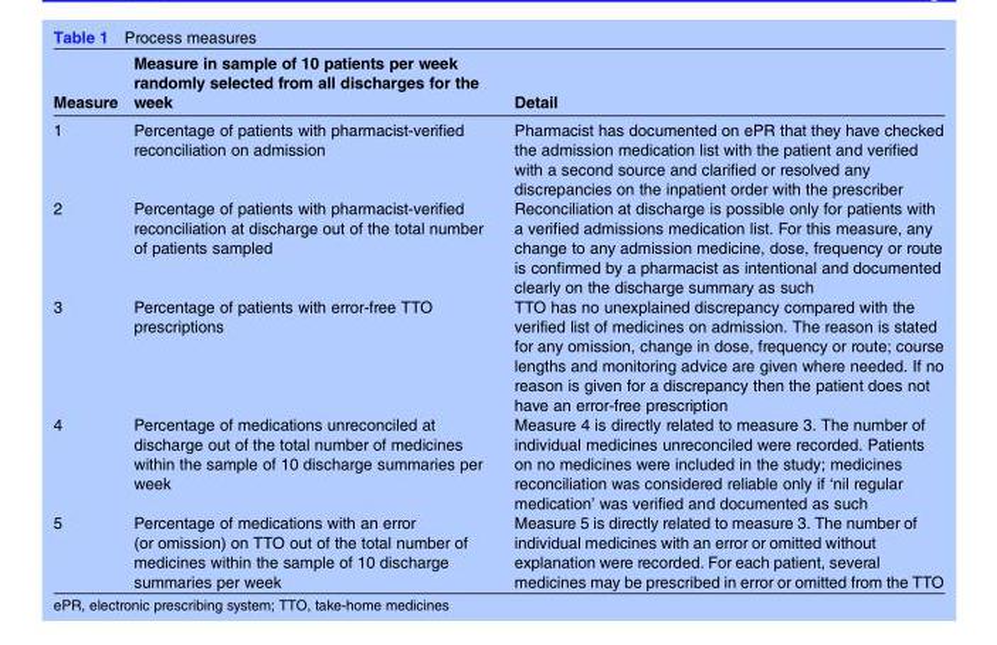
<table><thead><tr><td>Measure</td><td>Measure in sample of 10 patients per week randomly selected from all discharges for the week</td><td>Detail</td></tr></thead><tbody><tr><td>1</td><td>Percentage of patients with pharmacist-verified reconciliation on admission</td><td>Pharmacist has documented on ePR that they have checked the admission medication list with the patient and verified with a second source and clarified or resolved any discrepancies on the inpatient order with the prescriber</td></tr><tr><td>2</td><td>Percentage of patients with pharmacist-verified reconciliation at discharge out of the total number of patients sampled</td><td>Reconciliation at discharge is possible only for patients with a verified admissions medication list. For this measure, any change to any admission medicine, dose, frequency or route is confirmed by a pharmacist as intentional and documented clearly on the discharge summary as such</td></tr><tr><td>3</td><td>Percentage of patients with error-free TTO prescriptions</td><td>TTO has no unexplained discrepancy compared with the verified list of medicines on admission. The reason is stated for any omission, change in dose, frequency or route; course lengths and monitoring advice are given where needed. If no reason is given for a discrepancy then the patient does not have an error-free prescription</td></tr><tr><td>4</td><td>Percentage of medications unreconciled at discharge out of the total number of medicines within the sample of 10 discharge summaries per week</td><td>Measure 4 is directly related to measure 3. The number of individual medicines unreconciled were recorded. Patients on no medicines were included in the study; medicines reconciliation was considered reliable only if ‘nil regular medication’ was verified and documented as such</td></tr><tr><td>5</td><td>Percentage of medications with an error (or omission) on TTO out of the total number of medicines within the sample of 10 discharge summaries per week</td><td>Measure 5 is directly related to measure 3. The number of individual medicines with an error or omitted without explanation were recorded. For each patient, several medicines may be prescribed in error or omitted from the TTO</td></tr></tbody></table>